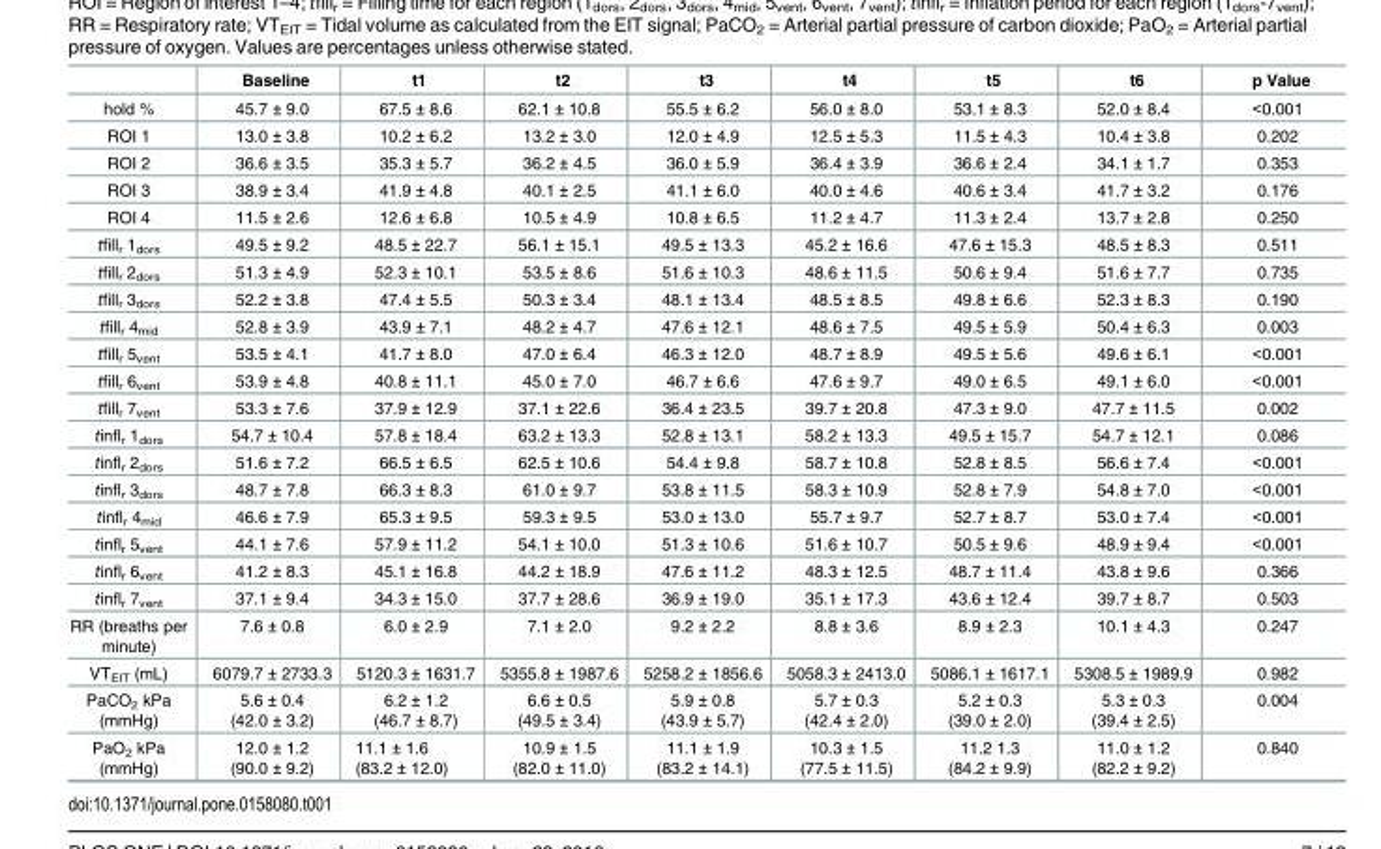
<table><thead><tr><td></td><td>Baseline</td><td>t1</td><td>t2</td><td>t3</td><td>t4</td><td>t5</td><td>t6</td><td>p Value</td></tr></thead><tbody><tr><td>hold %</td><td>45.7 ± 9.0</td><td>67.5 ± 8.6</td><td>62.1 ± 10.8</td><td>55.5 ± 6.2</td><td>56.0 ± 8.0</td><td>53.1 ± 8.3</td><td>52.0 ± 8.4</td><td>&lt;0.001</td></tr><tr><td>ROI 1</td><td>13.0 ± 3.8</td><td>10.2 ± 6.2</td><td>13.2 ± 3.0</td><td>12.0 ± 4.9</td><td>12.5 ± 5.3</td><td>11.5 ± 4.3</td><td>10.4 ± 3.8</td><td>0.202</td></tr><tr><td>ROI 2</td><td>36.6 ± 3.5</td><td>35.3 ± 5.7</td><td>36.2 ± 4.5</td><td>36.0 ± 5.9</td><td>36.4 ± 3.9</td><td>36.6 ± 2.4</td><td>34.1 ± 1.7</td><td>0.353</td></tr><tr><td>ROI 3</td><td>38.9 ± 3.4</td><td>41.9 ± 4.8</td><td>40.1 ± 2.5</td><td>41.1 ± 6.0</td><td>40.0 ± 4.6</td><td>40.6 ± 3.4</td><td>41.7 ± 3.2</td><td>0.176</td></tr><tr><td>ROI 4</td><td>11.5 ± 2.6</td><td>12.6 ± 6.8</td><td>10.5 ± 4.9</td><td>10.8 ± 6.5</td><td>11.2 ± 4.7</td><td>11.3 ± 2.4</td><td>13.7 ± 2.8</td><td>0.250</td></tr><tr><td>tfill<sub>r</sub> 1<sub>dors</sub></td><td>49.5 ± 9.2</td><td>48.5 ± 22.7</td><td>56.1 ± 15.1</td><td>49.5 ± 13.3</td><td>45.2 ± 16.6</td><td>47.6 ± 15.3</td><td>48.5 ± 8.3</td><td>0.511</td></tr><tr><td>tfill<sub>r</sub> 2<sub>dors</sub></td><td>51.3 ± 4.9</td><td>52.3 ± 10.1</td><td>53.5 ± 8.6</td><td>51.6 ± 10.3</td><td>48.6 ± 11.5</td><td>50.6 ± 9.4</td><td>51.6 ± 7.7</td><td>0.735</td></tr><tr><td>tfill<sub>r</sub> 3<sub>dors</sub></td><td>52.2 ± 3.8</td><td>47.4 ± 5.5</td><td>50.3 ± 3.4</td><td>48.1 ± 13.4</td><td>48.5 ± 8.5</td><td>49.8 ± 6.6</td><td>52.3 ± 8.3</td><td>0.190</td></tr><tr><td>tfill<sub>r</sub> 4<sub>mid</sub></td><td>52.8 ± 3.9</td><td>43.9 ± 7.1</td><td>48.2 ± 4.7</td><td>47.6 ± 12.1</td><td>48.6 ± 7.5</td><td>49.5 ± 5.9</td><td>50.4 ± 6.3</td><td>0.003</td></tr><tr><td>tfill<sub>r</sub> 5<sub>vent</sub></td><td>53.5 ± 4.1</td><td>41.7 ± 8.0</td><td>47.0 ± 6.4</td><td>46.3 ± 12.0</td><td>48.7 ± 8.9</td><td>49.5 ± 5.6</td><td>49.6 ± 6.1</td><td>&lt;0.001</td></tr><tr><td>tfill<sub>r</sub> 6<sub>vent</sub></td><td>53.9 ± 4.8</td><td>40.8 ± 11.1</td><td>45.0 ± 7.0</td><td>46.7 ± 6.6</td><td>47.6 ± 9.7</td><td>49.0 ± 6.5</td><td>49.1 ± 6.0</td><td>&lt;0.001</td></tr><tr><td>tfill<sub>r</sub> 7<sub>vent</sub></td><td>53.3 ± 7.6</td><td>37.9 ± 12.9</td><td>37.1 ± 22.6</td><td>36.4 ± 23.5</td><td>39.7 ± 20.8</td><td>47.3 ± 9.0</td><td>47.7 ± 11.5</td><td>0.002</td></tr><tr><td>tinfl<sub>r</sub> 1<sub>dors</sub></td><td>54.7 ± 10.4</td><td>57.8 ± 18.4</td><td>63.2 ± 13.3</td><td>52.8 ± 13.1</td><td>58.2 ± 13.3</td><td>49.5 ± 15.7</td><td>54.7 ± 12.1</td><td>0.086</td></tr><tr><td>tinfl<sub>r</sub> 2<sub>dors</sub></td><td>51.6 ± 7.2</td><td>66.5 ± 6.5</td><td>62.5 ± 10.6</td><td>54.4 ± 9.8</td><td>58.7 ± 10.8</td><td>52.8 ± 8.5</td><td>56.6 ± 7.4</td><td>&lt;0.001</td></tr><tr><td>tinfl<sub>r</sub> 3<sub>dors</sub></td><td>48.7 ± 7.8</td><td>66.3 ± 8.3</td><td>61.0 ± 9.7</td><td>53.8 ± 11.5</td><td>58.3 ± 10.9</td><td>52.8 ± 7.9</td><td>54.8 ± 7.0</td><td>&lt;0.001</td></tr><tr><td>tinfl<sub>r</sub> 4<sub>mid</sub></td><td>46.6 ± 7.9</td><td>65.3 ± 9.5</td><td>59.3 ± 9.5</td><td>53.0 ± 13.0</td><td>55.7 ± 9.7</td><td>52.7 ± 8.7</td><td>53.0 ± 7.4</td><td>&lt;0.001</td></tr><tr><td>tinfl<sub>r</sub> 5<sub>vent</sub></td><td>44.1 ± 7.6</td><td>57.9 ± 11.2</td><td>54.1 ± 10.0</td><td>51.3 ± 10.6</td><td>51.6 ± 10.7</td><td>50.5 ± 9.6</td><td>48.9 ± 9.4</td><td>&lt;0.001</td></tr><tr><td>tinfl<sub>r</sub> 6<sub>vent</sub></td><td>41.2 ± 8.3</td><td>45.1 ± 16.8</td><td>44.2 ± 18.9</td><td>47.6 ± 11.2</td><td>48.3 ± 12.5</td><td>48.7 ± 11.4</td><td>43.8 ± 9.6</td><td>0.366</td></tr><tr><td>tinfl<sub>r</sub> 7<sub>vent</sub></td><td>37.1 ± 9.4</td><td>34.3 ± 15.0</td><td>37.7 ± 28.6</td><td>36.9 ± 19.0</td><td>35.1 ± 17.3</td><td>43.6 ± 12.4</td><td>39.7 ± 8.7</td><td>0.503</td></tr><tr><td>RR (breaths per minute)</td><td>7.6 ± 0.8</td><td>6.0 ± 2.9</td><td>7.1 ± 2.0</td><td>9.2 ± 2.2</td><td>8.8 ± 3.6</td><td>8.9 ± 2.3</td><td>10.1 ± 4.3</td><td>0.247</td></tr><tr><td>VT<sub>EIT</sub> (mL)</td><td>6079.7 ± 2733.3</td><td>5120.3 ± 1631.7</td><td>5355.8 ± 1987.6</td><td>5258.2 ± 1856.6</td><td>5058.3 ± 2413.0</td><td>5086.1 ± 1617.1</td><td>5308.5 ± 1989.9</td><td>0.982</td></tr><tr><td>PaCO<sub>2</sub> kPa (mmHg)</td><td>5.6 ± 0.4 (42.0 ± 3.2)</td><td>6.2 ± 1.2 (46.7 ± 8.7)</td><td>6.6 ± 0.5 (49.5 ± 3.4)</td><td>5.9 ± 0.8 (43.9 ± 5.7)</td><td>5.7 ± 0.3 (42.4 ± 2.0)</td><td>5.2 ± 0.3 (39.0 ± 2.0)</td><td>5.3 ± 0.3 (39.4 ± 2.5)</td><td>0.004</td></tr><tr><td>PaO<sub>2</sub> kPa (mmHg)</td><td>12.0 ± 1.2 (90.0 ± 9.2)</td><td>11.1 ± 1.6 (83.2 ± 12.0)</td><td>10.9 ± 1.5 (82.0 ± 11.0)</td><td>11.1 ± 1.9 (83.2 ± 14.1)</td><td>10.3 ± 1.5 (77.5 ± 11.5)</td><td>11.2 1.3 (84.2 ± 9.9)</td><td>11.0 ± 1.2 (82.2 ± 9.2)</td><td>0.840</td></tr></tbody></table>